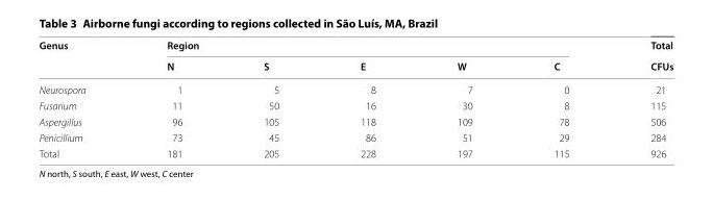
<table><thead><tr><td rowspan="2">Genus</td><td colspan="5">Region</td><td rowspan="2">Total CFUs</td></tr><tr><td>N</td><td>S</td><td>E</td><td>W</td><td>C</td></tr></thead><tbody><tr><td>Neurospora</td><td>1</td><td>5</td><td>8</td><td>7</td><td>0</td><td>21</td></tr><tr><td>Fusarium</td><td>11</td><td>50</td><td>16</td><td>30</td><td>8</td><td>115</td></tr><tr><td>Aspergillus</td><td>96</td><td>105</td><td>118</td><td>109</td><td>78</td><td>506</td></tr><tr><td>Penicillium</td><td>73</td><td>45</td><td>86</td><td>51</td><td>29</td><td>284</td></tr><tr><td>Total</td><td>181</td><td>205</td><td>228</td><td>197</td><td>115</td><td>926</td></tr></tbody></table>